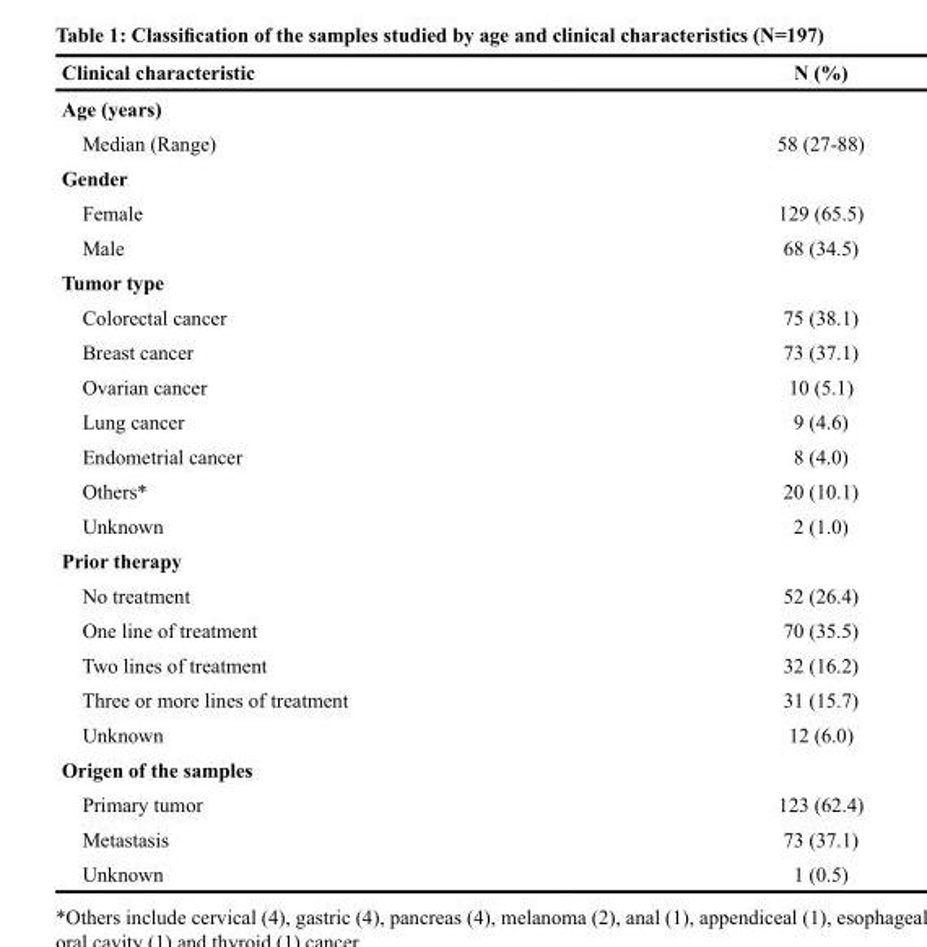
<table><thead><tr><td>Clinical characteristic</td><td>N (%)</td></tr></thead><tbody><tr><td colspan="2">Age (years)</td></tr><tr><td>Median (Range)</td><td>58 (27-88)</td></tr><tr><td colspan="2">Gender</td></tr><tr><td>Female</td><td>129 (65.5)</td></tr><tr><td>Male</td><td>68 (34.5)</td></tr><tr><td colspan="2">Tumor type</td></tr><tr><td>Colorectal cancer</td><td>75 (38.1)</td></tr><tr><td>Breast cancer</td><td>73 (37.1)</td></tr><tr><td>Ovarian cancer</td><td>10 (5.1)</td></tr><tr><td>Lung cancer</td><td>9 (4.6)</td></tr><tr><td>Endometrial cancer</td><td>8 (4.0)</td></tr><tr><td>Others*</td><td>20 (10.1)</td></tr><tr><td>Unknown</td><td>2 (1.0)</td></tr><tr><td colspan="2">Prior therapy</td></tr><tr><td>No treatment</td><td>52 (26.4)</td></tr><tr><td>One line of treatment</td><td>70 (35.5)</td></tr><tr><td>Two lines of treatment</td><td>32 (16.2)</td></tr><tr><td>Three or more lines of treatment</td><td>31 (15.7)</td></tr><tr><td>Unknown</td><td>12 (6.0)</td></tr><tr><td colspan="2">Origen of the samples</td></tr><tr><td>Primary tumor</td><td>123 (62.4)</td></tr><tr><td>Metastasis</td><td>73 (37.1)</td></tr><tr><td>Unknown</td><td>1 (0.5)</td></tr></tbody></table>